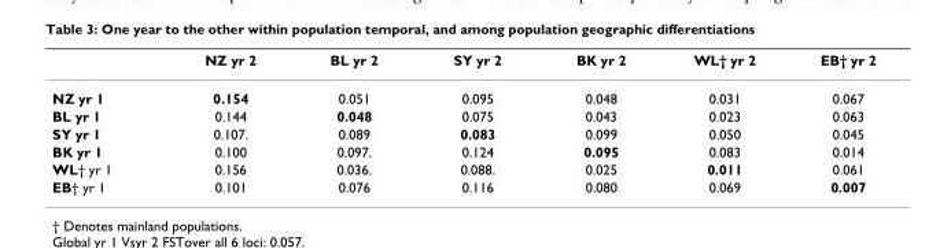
<table><thead><tr><td></td><td>NZ yr 2</td><td>BL yr 2</td><td>SY yr 2</td><td>BK yr 2</td><td>WL† yr 2</td><td>EB† yr 2</td></tr></thead><tbody><tr><td>NZ yr 1</td><td>0.154</td><td>0.051</td><td>0.095</td><td>0.048</td><td>0.031</td><td>0.067</td></tr><tr><td>BL yr 1</td><td>0.144</td><td>0.048</td><td>0.075</td><td>0.043</td><td>0.023</td><td>0.063</td></tr><tr><td>SY yr 1</td><td>0.107.</td><td>0.089</td><td>0.083</td><td>0.099</td><td>0.050</td><td>0.045</td></tr><tr><td>BK yr 1</td><td>0.100</td><td>0.097.</td><td>0.124</td><td>0.095</td><td>0.083</td><td>0.014</td></tr><tr><td>WL† yr 1</td><td>0.156</td><td>0.036.</td><td>0.088.</td><td>0.025</td><td>0.011</td><td>0.061</td></tr><tr><td>EB† yr 1</td><td>0.101</td><td>0.076</td><td>0.116</td><td>0.080</td><td>0.069</td><td>0.007</td></tr></tbody></table>